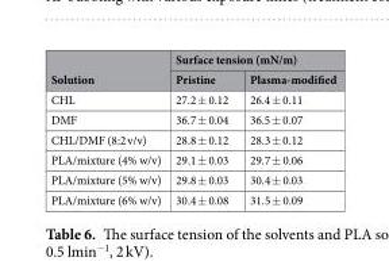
<table><thead><tr><td rowspan="2">Solution</td><td colspan="2">Surface tension (mN/m)</td></tr><tr><td>Pristine</td><td>Plasma-modified</td></tr></thead><tbody><tr><td>CHL</td><td>27.2 ± 0.12</td><td>26.4 ± 0.11</td></tr><tr><td>DMF</td><td>36.7 ± 0.04</td><td>36.5 ± 0.07</td></tr><tr><td>CHL/DMF (8:2 v/v)</td><td>28.8 ± 0.12</td><td>28.3 ± 0.12</td></tr><tr><td>PLA/mixture (4% w/v)</td><td>29.1 ± 0.03</td><td>29.7 ± 0.06</td></tr><tr><td>PLA/mixture (5% w/v)</td><td>29.8 ± 0.03</td><td>30.4 ± 0.03</td></tr><tr><td>PLA/mixture (6% w/v)</td><td>30.4 ± 0.08</td><td>31.5 ± 0.09</td></tr></tbody></table>